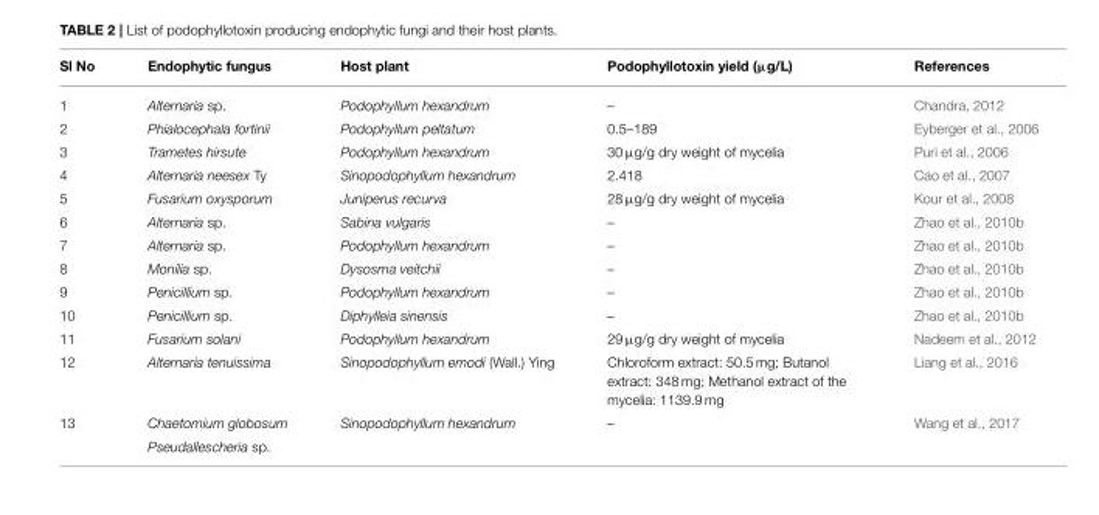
<table><thead><tr><td>Sl No</td><td>Endophytic fungus</td><td>Host plant</td><td>Podophyllotoxin yield (µg/L)</td><td>References</td></tr></thead><tbody><tr><td>1</td><td>Alternaria sp.</td><td>Podophyllum hexandrum</td><td>–</td><td>Chandra, 2012</td></tr><tr><td>2</td><td>Phialocephala fortinii</td><td>Podophyllum peltatum</td><td>0.5–189</td><td>Eyberger et al., 2006</td></tr><tr><td>3</td><td>Trametes hirsute</td><td>Podophyllum hexandrum</td><td>30 µg/g dry weight of mycelia</td><td>Puri et al., 2006</td></tr><tr><td>4</td><td>Alternaria neesex Ty</td><td>Sinopodophyllum hexandrum</td><td>2.418</td><td>Cao et al., 2007</td></tr><tr><td>5</td><td>Fusarium oxysporum</td><td>Juniperus recurva</td><td>28 µg/g dry weight of mycelia</td><td>Kour et al., 2008</td></tr><tr><td>6</td><td>Alternaria sp.</td><td>Sabina vulgaris</td><td>–</td><td>Zhao et al., 2010b</td></tr><tr><td>7</td><td>Alternaria sp.</td><td>Podophyllum hexandrum</td><td>–</td><td>Zhao et al., 2010b</td></tr><tr><td>8</td><td>Monilia sp.</td><td>Dysosma veitchii</td><td>–</td><td>Zhao et al., 2010b</td></tr><tr><td>9</td><td>Penicillium sp.</td><td>Podophyllum hexandrum</td><td>–</td><td>Zhao et al., 2010b</td></tr><tr><td>10</td><td>Penicillium sp.</td><td>Diphylleia sinensis</td><td>–</td><td>Zhao et al., 2010b</td></tr><tr><td>11</td><td>Fusarium solani</td><td>Podophyllum hexandrum</td><td>29 µg/g dry weight of mycelia</td><td>Nadeem et al., 2012</td></tr><tr><td>12</td><td>Alternaria tenuissima</td><td>Sinopodophyllum emodi (Wall.) Ying</td><td>Chloroform extract: 50.5 mg; Butanol extract: 348 mg; Methanol extract of the mycelia: 1139.9 mg</td><td>Liang et al., 2016</td></tr><tr><td rowspan="2">13</td><td>Chaetomium globosum</td><td>Sinopodophyllum hexandrum</td><td>–</td><td>Wang et al., 2017</td></tr><tr><td>Pseudallescheria sp.</td><td></td><td></td><td></td></tr></tbody></table>